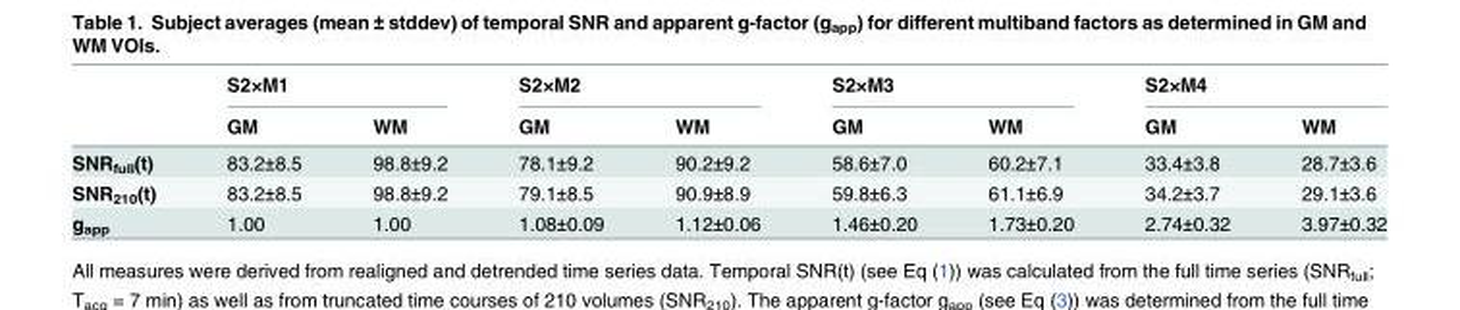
<table><thead><tr><td rowspan="2"></td><td colspan="2">S2×M1</td><td colspan="2">S2×M2</td><td colspan="2">S2×M3</td><td colspan="2">S2×M4</td></tr><tr><td>GM</td><td>WM</td><td>GM</td><td>WM</td><td>GM</td><td>WM</td><td>GM</td><td>WM</td></tr></thead><tbody><tr><td>SNR<sub>full</sub>(t)</td><td>83.2±8.5</td><td>98.8±9.2</td><td>78.1±9.2</td><td>90.2±9.2</td><td>58.6±7.0</td><td>60.2±7.1</td><td>33.4±3.8</td><td>28.7±3.6</td></tr><tr><td>SNR<sub>210</sub>(t)</td><td>83.2±8.5</td><td>98.8±9.2</td><td>79.1±8.5</td><td>90.9±8.9</td><td>59.8±6.3</td><td>61.1±6.9</td><td>34.2±3.7</td><td>29.1±3.6</td></tr><tr><td>g<sub>app</sub></td><td>1.00</td><td>1.00</td><td>1.08±0.09</td><td>1.12±0.06</td><td>1.46±0.20</td><td>1.73±0.20</td><td>2.74±0.32</td><td>3.97±0.32</td></tr></tbody></table>